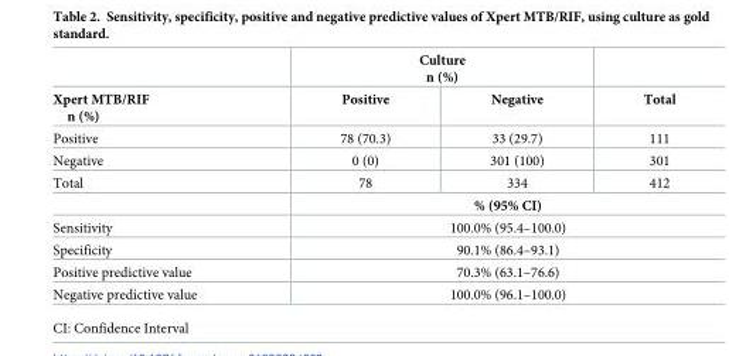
<table><thead><tr><td rowspan="2">Xpert MTB/RIF n (%)</td><td colspan="2">Culture n (%)</td><td rowspan="2">Total</td></tr><tr><td>Positive</td><td>Negative</td></tr></thead><tbody><tr><td>Positive</td><td>78 (70.3)</td><td>33 (29.7)</td><td>111</td></tr><tr><td>Negative</td><td>0 (0)</td><td>301 (100)</td><td>301</td></tr><tr><td rowspan="2">Total</td><td>78</td><td>334</td><td>412</td></tr><tr><td colspan="3">% (95% CI)</td></tr><tr><td>Sensitivity</td><td colspan="3">100.0% (95.4–100.0)</td></tr><tr><td>Specificity</td><td colspan="3">90.1% (86.4–93.1)</td></tr><tr><td>Positive predictive value</td><td colspan="3">70.3% (63.1–76.6)</td></tr><tr><td>Negative predictive value</td><td colspan="3">100.0% (96.1–100.0)</td></tr></tbody></table>